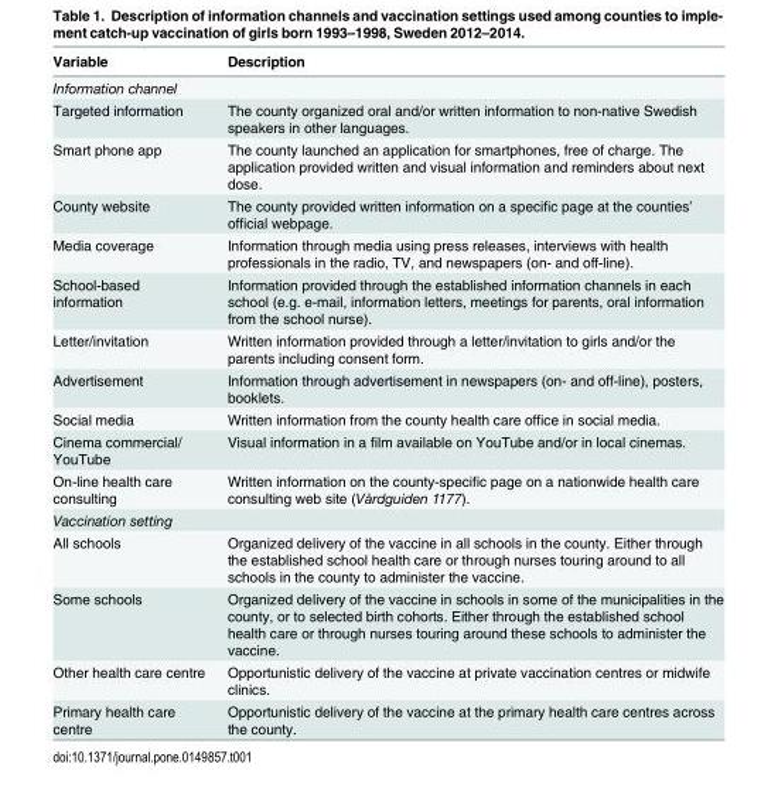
<table><thead><tr><td>Variable</td><td>Description</td></tr></thead><tbody><tr><td colspan="2">Information channel</td></tr><tr><td>Targeted information</td><td>The county organized oral and/or written information to non-native Swedish speakers in other languages.</td></tr><tr><td>Smart phone app</td><td>The county launched an application for smartphones, free of charge. The application provided written and visual information and reminders about next dose.</td></tr><tr><td>County website</td><td>The county provided written information on a specific page at the counties’ official webpage.</td></tr><tr><td>Media coverage</td><td>Information through media using press releases, interviews with health professionals in the radio, TV, and newspapers (on- and off-line).</td></tr><tr><td>School-based information</td><td>Information provided through the established information channels in each school (e.g. e-mail, information letters, meetings for parents, oral information from the school nurse).</td></tr><tr><td>Letter/invitation</td><td>Written information provided through a letter/invitation to girls and/or the parents including consent form.</td></tr><tr><td>Advertisement</td><td>Information through advertisement in newspapers (on- and off-line), posters, booklets.</td></tr><tr><td>Social media</td><td>Written information from the county health care office in social media.</td></tr><tr><td>Cinema commercial/ YouTube</td><td>Visual information in a film available on YouTube and/or in local cinemas.</td></tr><tr><td>On-line health care consulting</td><td>Written information on the county-specific page on a nationwide health care consulting web site (Vårdguiden 1177).</td></tr><tr><td colspan="2">Vaccination setting</td></tr><tr><td>All schools</td><td>Organized delivery of the vaccine in all schools in the county. Either through the established school health care or through nurses touring around to all schools in the county to administer the vaccine.</td></tr><tr><td>Some schools</td><td>Organized delivery of the vaccine in schools in some of the municipalities in the county, or to selected birth cohorts. Either through the established school health care or through nurses touring around these schools to administer the vaccine.</td></tr><tr><td>Other health care centre</td><td>Opportunistic delivery of the vaccine at private vaccination centres or midwife clinics.</td></tr><tr><td>Primary health care centre</td><td>Opportunistic delivery of the vaccine at the primary health care centres across the county.</td></tr></tbody></table>